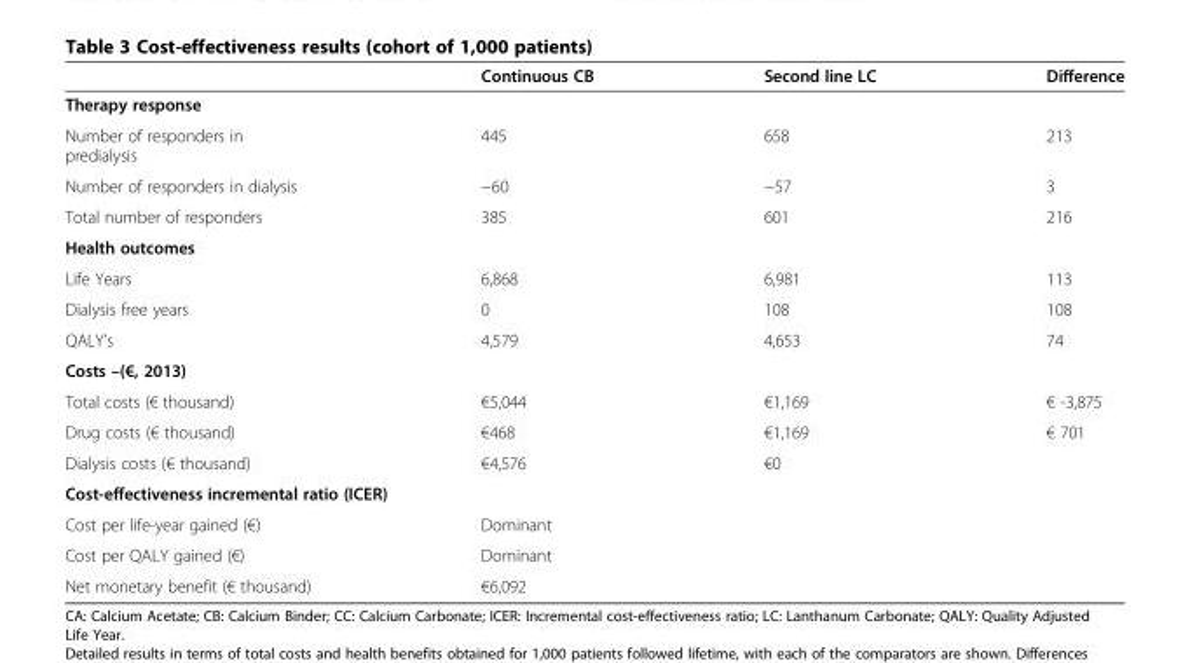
<table><thead><tr><td></td><td>Continuous CB</td><td>Second line LC</td><td>Difference</td></tr></thead><tbody><tr><td colspan="4">Therapy response</td></tr><tr><td>Number of responders in predialysis</td><td>445</td><td>658</td><td>213</td></tr><tr><td>Number of responders in dialysis</td><td>−60</td><td>−57</td><td>3</td></tr><tr><td>Total number of responders</td><td>385</td><td>601</td><td>216</td></tr><tr><td colspan="4">Health outcomes</td></tr><tr><td>Life Years</td><td>6,868</td><td>6,981</td><td>113</td></tr><tr><td>Dialysis free years</td><td>0</td><td>108</td><td>108</td></tr><tr><td>QALY’s</td><td>4,579</td><td>4,653</td><td>74</td></tr><tr><td colspan="4">Costs –(€, 2013)</td></tr><tr><td>Total costs (€ thousand)</td><td>€5,044</td><td>€1,169</td><td>€ -3,875</td></tr><tr><td>Drug costs (€ thousand)</td><td>€468</td><td>€1,169</td><td>€ 701</td></tr><tr><td>Dialysis costs (€ thousand)</td><td>€4,576</td><td>€0</td><td></td></tr><tr><td colspan="4">Cost-effectiveness incremental ratio (ICER)</td></tr><tr><td>Cost per life-year gained (€)</td><td colspan="3">Dominant</td></tr><tr><td>Cost per QALY gained (€)</td><td colspan="3">Dominant</td></tr><tr><td>Net monetary benefit (€ thousand)</td><td colspan="3">€6,092</td></tr></tbody></table>